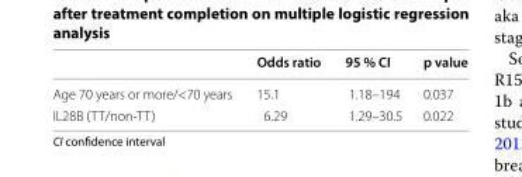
<table><thead><tr><td></td><td>Odds ratio</td><td>95 % CI</td><td>p value</td></tr></thead><tbody><tr><td>Age 70 years or more/&lt;70 years</td><td>15.1</td><td>1.18–194</td><td>0.037</td></tr><tr><td>IL28B (TT/non-TT)</td><td>6.29</td><td>1.29–30.5</td><td>0.022</td></tr></tbody></table>